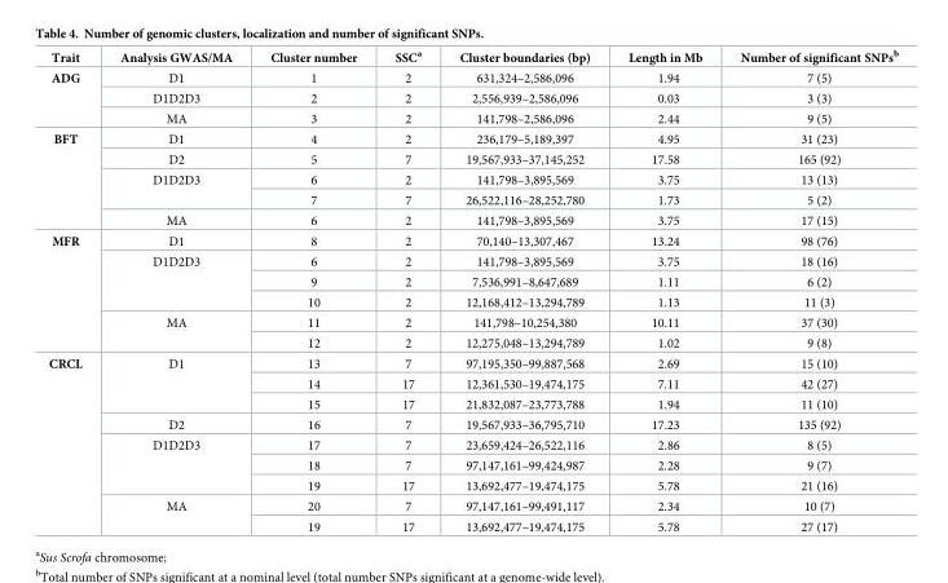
<table><thead><tr><td>Trait</td><td>Analysis GWAS/MA</td><td>Cluster number</td><td>SSC<sup>a</sup></td><td>Cluster boundaries (bp)</td><td>Length in Mb</td><td>Number of significant SNPs<sup>b</sup></td></tr></thead><tbody><tr><td rowspan="3">ADG</td><td>D1</td><td>1</td><td>2</td><td>631,324–2,586,096</td><td>1.94</td><td>7 (5)</td></tr><tr><td>D1D2D3</td><td>2</td><td>2</td><td>2,556,939–2,586,096</td><td>0.03</td><td>3 (3)</td></tr><tr><td>MA</td><td>3</td><td>2</td><td>141,798–2,586,096</td><td>2.44</td><td>9 (5)</td></tr><tr><td rowspan="5">BFT</td><td>D1</td><td>4</td><td>2</td><td>236,179–5,189,397</td><td>4.95</td><td>31 (23)</td></tr><tr><td>D2</td><td>5</td><td>7</td><td>19,567,933–37,145,252</td><td>17.58</td><td>165 (92)</td></tr><tr><td rowspan="2">D1D2D3</td><td>6</td><td>2</td><td>141,798–3,895,569</td><td>3.75</td><td>13 (13)</td></tr><tr><td>7</td><td>7</td><td>26,522,116–28,252,780</td><td>1.73</td><td>5 (2)</td></tr><tr><td>MA</td><td>6</td><td>2</td><td>141,798–3,895,569</td><td>3.75</td><td>17 (15)</td></tr><tr><td rowspan="6">MFR</td><td>D1</td><td>8</td><td>2</td><td>70,140–13,307,467</td><td>13.24</td><td>98 (76)</td></tr><tr><td rowspan="3">D1D2D3</td><td>6</td><td>2</td><td>141,798–3,895,569</td><td>3.75</td><td>18 (16)</td></tr><tr><td>9</td><td>2</td><td>7,536,991–8,647,689</td><td>1.11</td><td>6 (2)</td></tr><tr><td>10</td><td>2</td><td>12,168,412–13,294,789</td><td>1.13</td><td>11 (3)</td></tr><tr><td rowspan="2">MA</td><td>11</td><td>2</td><td>141,798–10,254,380</td><td>10.11</td><td>37 (30)</td></tr><tr><td>12</td><td>2</td><td>12,275,048–13,294,789</td><td>1.02</td><td>9 (8)</td></tr><tr><td rowspan="9">CRCL</td><td rowspan="3">D1</td><td>13</td><td>7</td><td>97,195,350–99,887,568</td><td>2.69</td><td>15 (10)</td></tr><tr><td>14</td><td>17</td><td>12,361,530–19,474,175</td><td>7.11</td><td>42 (27)</td></tr><tr><td>15</td><td>17</td><td>21,832,087–23,773,788</td><td>1.94</td><td>11 (10)</td></tr><tr><td>D2</td><td>16</td><td>7</td><td>19,567,933–36,795,710</td><td>17.23</td><td>135 (92)</td></tr><tr><td rowspan="3">D1D2D3</td><td>17</td><td>7</td><td>23,659,424–26,522,116</td><td>2.86</td><td>8 (5)</td></tr><tr><td>18</td><td>7</td><td>97,147,161–99,424,987</td><td>2.28</td><td>9 (7)</td></tr><tr><td>19</td><td>17</td><td>13,692,477–19,474,175</td><td>5.78</td><td>21 (16)</td></tr><tr><td rowspan="2">MA</td><td>20</td><td>7</td><td>97,147,161–99,491,117</td><td>2.34</td><td>10 (7)</td></tr><tr><td>19</td><td>17</td><td>13,692,477–19,474,175</td><td>5.78</td><td>27 (17)</td></tr></tbody></table>